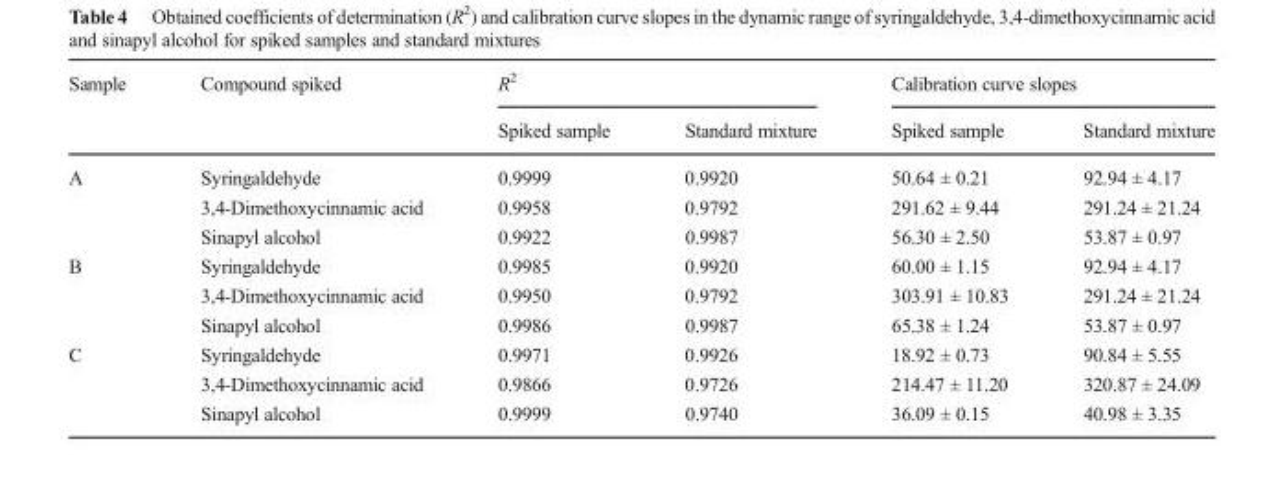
<table><thead><tr><td rowspan="2">Sample</td><td rowspan="2">Compound spiked</td><td colspan="2">R<sup>2</sup></td><td colspan="2">Calibration curve slopes</td></tr><tr><td>Spiked sample</td><td>Standard mixture</td><td>Spiked sample</td><td>Standard mixture</td></tr></thead><tbody><tr><td rowspan="3">A</td><td>Syringaldehyde</td><td>0.9999</td><td>0.9920</td><td>50.64 ± 0.21</td><td>92.94 ± 4.17</td></tr><tr><td>3,4-Dimethoxycinnamic acid</td><td>0.9958</td><td>0.9792</td><td>291.62 ± 9.44</td><td>291.24 ± 21.24</td></tr><tr><td>Sinapyl alcohol</td><td>0.9922</td><td>0.9987</td><td>56.30 ± 2.50</td><td>53.87 ± 0.97</td></tr><tr><td rowspan="3">B</td><td>Syringaldehyde</td><td>0.9985</td><td>0.9920</td><td>60.00 ± 1.15</td><td>92.94 ± 4.17</td></tr><tr><td>3,4-Dimethoxycinnamic acid</td><td>0.9950</td><td>0.9792</td><td>303.91 ± 10.83</td><td>291.24 ± 21.24</td></tr><tr><td>Sinapyl alcohol</td><td>0.9986</td><td>0.9987</td><td>65.38 ± 1.24</td><td>53.87 ± 0.97</td></tr><tr><td rowspan="3">C</td><td>Syringaldehyde</td><td>0.9971</td><td>0.9926</td><td>18.92 ± 0.73</td><td>90.84 ± 5.55</td></tr><tr><td>3,4-Dimethoxycinnamic acid</td><td>0.9866</td><td>0.9726</td><td>214.47 ± 11.20</td><td>320.87 ± 24.09</td></tr><tr><td>Sinapyl alcohol</td><td>0.9999</td><td>0.9740</td><td>36.09 ± 0.15</td><td>40.98 ± 3.35</td></tr></tbody></table>